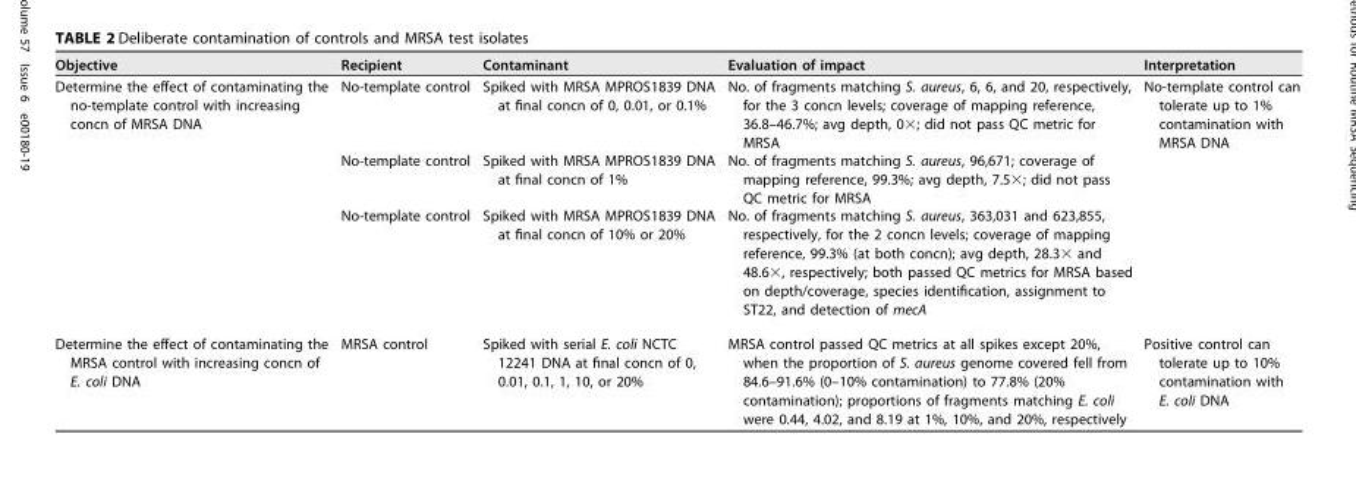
<table><thead><tr><td>Objective</td><td>Recipient</td><td>Contaminant</td><td>Evaluation of impact</td><td>Interpretation</td></tr></thead><tbody><tr><td rowspan="3">Determine the effect of contaminating the no-template control with increasing concn of MRSA DNA</td><td>No-template control</td><td>Spiked with MRSA MPROS1839 DNA at final concn of 0, 0.01, or 0.1%</td><td>No. of fragments matching S. aureus, 6, 6, and 20, respectively, for the 3 concn levels; coverage of mapping reference, 36.8–46.7%; avg depth, 0×; did not pass QC metric for MRSA</td><td rowspan="3">No-template control can tolerate up to 1% contamination with MRSA DNA</td></tr><tr><td>No-template control</td><td>Spiked with MRSA MPROS1839 DNA at final concn of 1%</td><td>No. of fragments matching S. aureus, 96,671; coverage of mapping reference, 99.3%; avg depth, 7.5×; did not pass QC metric for MRSA</td></tr><tr><td>No-template control</td><td>Spiked with MRSA MPROS1839 DNA at final concn of 10% or 20%</td><td>No. of fragments matching S. aureus, 363,031 and 623,855, respectively, for the 2 concn levels; coverage of mapping reference, 99.3% (at both concn); avg depth, 28.3× and 48.6×, respectively; both passed QC metrics for MRSA based on depth/coverage, species identification, assignment to ST22, and detection of mecA</td></tr><tr><td>Determine the effect of contaminating the MRSA control with increasing concn of E. coli DNA</td><td>MRSA control</td><td>Spiked with serial E. coli NCTC 12241 DNA at final concn of 0, 0.01, 0.1, 1, 10, or 20%</td><td>MRSA control passed QC metrics at all spikes except 20%, when the proportion of S. aureus genome covered fell from 84.6–91.6% (0–10% contamination) to 77.8% (20% contamination); proportions of fragments matching E. coli were 0.44, 4.02, and 8.19 at 1%, 10%, and 20%, respectively</td><td>Positive control can tolerate up to 10% contamination with E. coli DNA</td></tr></tbody></table>